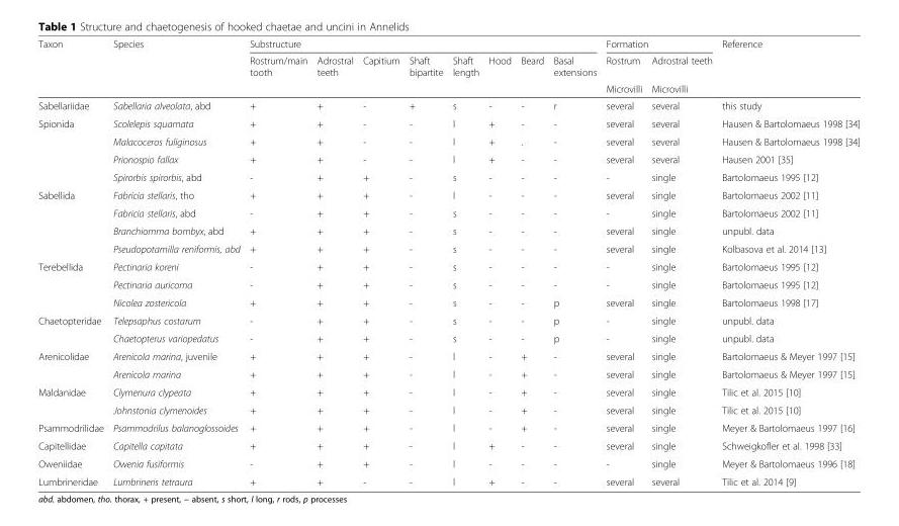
<table><thead><tr><td rowspan="3">Taxon</td><td rowspan="3">Species</td><td colspan="8">Substructure</td><td colspan="2">Formation</td><td rowspan="3">Reference</td></tr><tr><td rowspan="2">Rostrum/main tooth</td><td rowspan="2">Adrostral teeth</td><td rowspan="2">Capitium</td><td rowspan="2">Shaft bipartite</td><td rowspan="2">Shaft length</td><td rowspan="2">Hood</td><td rowspan="2">Beard</td><td rowspan="2">Basal extensions</td><td rowspan="2">Rostrum Microvilli</td><td rowspan="2">Adrostral teeth Microvilli</td></tr><tr></tr></thead><tbody><tr><td>Sabellariidae</td><td>Sabellaria alveolata, abd</td><td>+</td><td>+</td><td>-</td><td>+</td><td>s</td><td>-</td><td>-</td><td>r</td><td>several</td><td>several</td><td>this study</td></tr><tr><td rowspan="4">Spionida</td><td>Scolelepis squamata</td><td>+</td><td>+</td><td>-</td><td>-</td><td>l</td><td>+</td><td>-</td><td>-</td><td>several</td><td>several</td><td>Hausen &amp; Bartolomaeus 1998 [34]</td></tr><tr><td>Malacoceros fuliginosus</td><td>+</td><td>+</td><td>-</td><td>-</td><td>l</td><td>+</td><td>.</td><td>-</td><td>several</td><td>several</td><td>Hausen &amp; Bartolomaeus 1998 [34]</td></tr><tr><td>Prionospio fallax</td><td>+</td><td>+</td><td>-</td><td>-</td><td>l</td><td>+</td><td>-</td><td>-</td><td>several</td><td>several</td><td>Hausen 2001 [35]</td></tr><tr><td>Spirorbis spirorbis, abd</td><td>-</td><td>+</td><td>+</td><td>-</td><td>s</td><td>-</td><td>-</td><td>-</td><td>-</td><td>single</td><td>Bartolomaeus 1995 [12]</td></tr><tr><td rowspan="4">Sabellida</td><td>Fabricia stellaris, tho</td><td>+</td><td>+</td><td>+</td><td>-</td><td>l</td><td>-</td><td>-</td><td>-</td><td>several</td><td>single</td><td>Bartolomaeus 2002 [11]</td></tr><tr><td>Fabricia stellaris, abd</td><td>-</td><td>+</td><td>+</td><td>-</td><td>s</td><td>-</td><td>-</td><td>-</td><td>-</td><td>single</td><td>Bartolomaeus 2002 [11]</td></tr><tr><td>Branchiomma bombyx, abd</td><td>+</td><td>+</td><td>+</td><td>-</td><td>s</td><td>-</td><td>-</td><td>-</td><td>several</td><td>single</td><td>unpubl. data</td></tr><tr><td>Pseudopotamilla reniformis, abd</td><td>+</td><td>+</td><td>+</td><td>-</td><td>s</td><td>-</td><td>-</td><td>-</td><td>several</td><td>single</td><td>Kolbasova et al. 2014 [13]</td></tr><tr><td rowspan="3">Terebellida</td><td>Pectinaria koreni</td><td>-</td><td>+</td><td>+</td><td>-</td><td>s</td><td>-</td><td>-</td><td>-</td><td>-</td><td>single</td><td>Bartolomaeus 1995 [12]</td></tr><tr><td>Pectinaria auricoma</td><td>-</td><td>+</td><td>+</td><td>-</td><td>s</td><td>-</td><td>-</td><td>-</td><td>-</td><td>single</td><td>Bartolomaeus 1995 [12]</td></tr><tr><td>Nicolea zostericola</td><td>+</td><td>+</td><td>+</td><td>-</td><td>s</td><td>-</td><td>-</td><td>p</td><td>several</td><td>single</td><td>Bartolomaeus 1998 [17]</td></tr><tr><td rowspan="2">Chaetopteridae</td><td>Telepsaphus costarum</td><td>-</td><td>+</td><td>+</td><td>-</td><td>s</td><td>-</td><td>-</td><td>p</td><td>-</td><td>single</td><td>unpubl. data</td></tr><tr><td>Chaetopterus variopedatus</td><td>-</td><td>+</td><td>+</td><td>-</td><td>s</td><td>-</td><td>-</td><td>p</td><td>-</td><td>single</td><td>unpubl. data</td></tr><tr><td rowspan="2">Arenicolidae</td><td>Arenicola marina, juvenile</td><td>+</td><td>+</td><td>+</td><td>-</td><td>l</td><td>-</td><td>+</td><td>-</td><td>several</td><td>single</td><td>Bartolomaeus &amp; Meyer 1997 [15]</td></tr><tr><td>Arenicola marina</td><td>+</td><td>+</td><td>+</td><td>-</td><td>l</td><td>-</td><td>+</td><td>-</td><td>several</td><td>single</td><td>Bartolomaeus &amp; Meyer 1997 [15]</td></tr><tr><td rowspan="2">Maldanidae</td><td>Clymenura clypeata</td><td>+</td><td>+</td><td>+</td><td>-</td><td>l</td><td>-</td><td>+</td><td>-</td><td>several</td><td>single</td><td>Tilic et al. 2015 [10]</td></tr><tr><td>Johnstonia clymenoides</td><td>+</td><td>+</td><td>+</td><td>-</td><td>l</td><td>-</td><td>+</td><td>-</td><td>several</td><td>single</td><td>Tilic et al. 2015 [10]</td></tr><tr><td>Psammodrilidae</td><td>Psammodrilus balanoglossoides</td><td>+</td><td>+</td><td>+</td><td>-</td><td>l</td><td>-</td><td>+</td><td>-</td><td>several</td><td>single</td><td>Meyer &amp; Bartolomaeus 1997 [16]</td></tr><tr><td>Capitellidae</td><td>Capitella capitata</td><td>+</td><td>+</td><td>+</td><td>-</td><td>l</td><td>+</td><td>-</td><td>-</td><td>several</td><td>single</td><td>Schweigkofler et al. 1998 [33]</td></tr><tr><td>Oweniidae</td><td>Owenia fusiformis</td><td>-</td><td>+</td><td>+</td><td>-</td><td>l</td><td>-</td><td>-</td><td>-</td><td>-</td><td>single</td><td>Meyer &amp; Bartolomaeus 1996 [18]</td></tr><tr><td>Lumbrineridae</td><td>Lumbrineris tetraura</td><td>+</td><td>+</td><td>-</td><td>-</td><td>l</td><td>+</td><td>-</td><td>-</td><td>several</td><td>several</td><td>Tilic et al. 2014 [9]</td></tr></tbody></table>